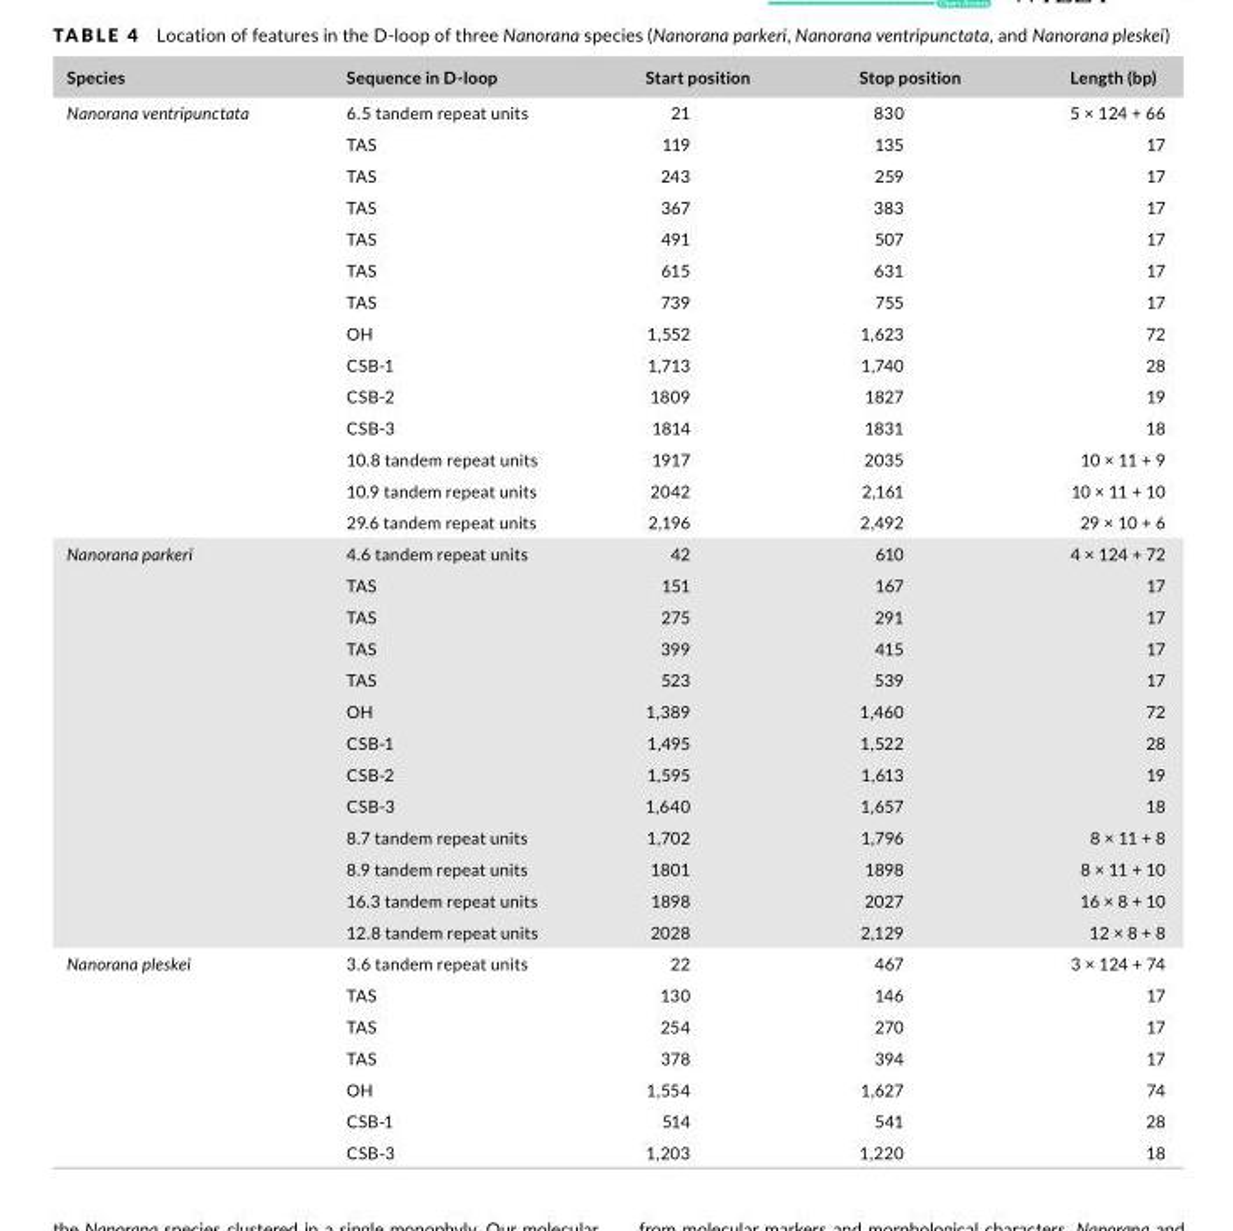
<table><thead><tr><td>Species</td><td>Sequence in D- loop</td><td>Start position</td><td>Stop position</td><td>Length (bp)</td></tr></thead><tbody><tr><td rowspan="14">Nanorana ventripunctata</td><td>6.5 tandem repeat units</td><td>21</td><td>830</td><td>5 × 124 + 66</td></tr><tr><td>TAS</td><td>119</td><td>135</td><td>17</td></tr><tr><td>TAS</td><td>243</td><td>259</td><td>17</td></tr><tr><td>TAS</td><td>367</td><td>383</td><td>17</td></tr><tr><td>TAS</td><td>491</td><td>507</td><td>17</td></tr><tr><td>TAS</td><td>615</td><td>631</td><td>17</td></tr><tr><td>TAS</td><td>739</td><td>755</td><td>17</td></tr><tr><td>OH</td><td>1,552</td><td>1,623</td><td>72</td></tr><tr><td>CSB- 1</td><td>1,713</td><td>1,740</td><td>28</td></tr><tr><td>CSB- 2</td><td>1809</td><td>1827</td><td>19</td></tr><tr><td>CSB- 3</td><td>1814</td><td>1831</td><td>18</td></tr><tr><td>10.8 tandem repeat units</td><td>1917</td><td>2035</td><td>10 × 11 + 9</td></tr><tr><td>10.9 tandem repeat units</td><td>2042</td><td>2,161</td><td>10 × 11 + 10</td></tr><tr><td>29.6 tandem repeat units</td><td>2,196</td><td>2,492</td><td>29 × 10 + 6</td></tr><tr><td rowspan="13">Nanorana parkeri</td><td>4.6 tandem repeat units</td><td>42</td><td>610</td><td>4 × 124 + 72</td></tr><tr><td>TAS</td><td>151</td><td>167</td><td>17</td></tr><tr><td>TAS</td><td>275</td><td>291</td><td>17</td></tr><tr><td>TAS</td><td>399</td><td>415</td><td>17</td></tr><tr><td>TAS</td><td>523</td><td>539</td><td>17</td></tr><tr><td>OH</td><td>1,389</td><td>1,460</td><td>72</td></tr><tr><td>CSB- 1</td><td>1,495</td><td>1,522</td><td>28</td></tr><tr><td>CSB- 2</td><td>1,595</td><td>1,613</td><td>19</td></tr><tr><td>CSB- 3</td><td>1,640</td><td>1,657</td><td>18</td></tr><tr><td>8.7 tandem repeat units</td><td>1,702</td><td>1,796</td><td>8 × 11 + 8</td></tr><tr><td>8.9 tandem repeat units</td><td>1801</td><td>1898</td><td>8 × 11 + 10</td></tr><tr><td>16.3 tandem repeat units</td><td>1898</td><td>2027</td><td>16 × 8 + 10</td></tr><tr><td>12.8 tandem repeat units</td><td>2028</td><td>2,129</td><td>12 × 8 + 8</td></tr><tr><td rowspan="7">Nanorana pleskei</td><td>3.6 tandem repeat units</td><td>22</td><td>467</td><td>3 × 124 + 74</td></tr><tr><td>TAS</td><td>130</td><td>146</td><td>17</td></tr><tr><td>TAS</td><td>254</td><td>270</td><td>17</td></tr><tr><td>TAS</td><td>378</td><td>394</td><td>17</td></tr><tr><td>OH</td><td>1,554</td><td>1,627</td><td>74</td></tr><tr><td>CSB- 1</td><td>514</td><td>541</td><td>28</td></tr><tr><td>CSB- 3</td><td>1,203</td><td>1,220</td><td>18</td></tr></tbody></table>